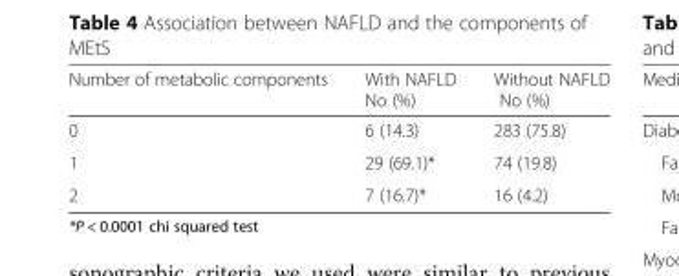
<table><thead><tr><td>Number of metabolic components</td><td>With NAFLD No (%)</td><td>Without NAFLD No (%)</td></tr></thead><tbody><tr><td>0</td><td>6 (14.3)</td><td>283 (75.8)</td></tr><tr><td>1</td><td>29 (69.1)*</td><td>74 (19.8)</td></tr><tr><td>2</td><td>7 (16.7)*</td><td>16 (4.2)</td></tr></tbody></table>